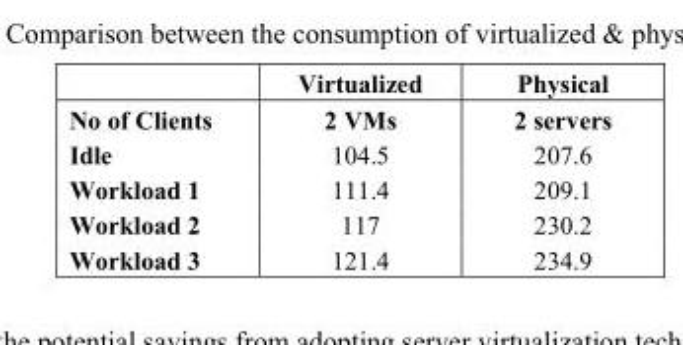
<table><thead><tr><td></td><td>Virtualized</td><td>Physical</td></tr></thead><tbody><tr><td>No of Clients</td><td>2 VMs</td><td>2 servers</td></tr><tr><td>Idle</td><td>104.5</td><td>207.6</td></tr><tr><td>Workload 1</td><td>111.4</td><td>209.1</td></tr><tr><td>Workload 2</td><td>117</td><td>230.2</td></tr><tr><td>Workload 3</td><td>121.4</td><td>234.9</td></tr></tbody></table>